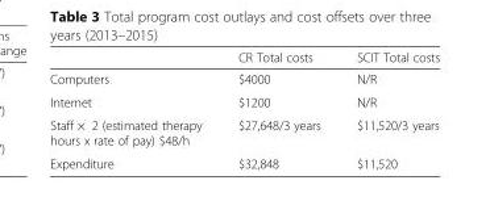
<table><thead><tr><td></td><td>CR Total costs</td><td>SCIT Total costs</td></tr></thead><tbody><tr><td>Computers</td><td>$4000</td><td>N/R</td></tr><tr><td>Internet</td><td>$1200</td><td>N/R</td></tr><tr><td>Staff × 2 (estimated therapy hours x rate of pay) $48/h</td><td>$27,648/3 years</td><td>$11,520/3 years</td></tr><tr><td>Expenditure</td><td>$32,848</td><td>$11,520</td></tr></tbody></table>